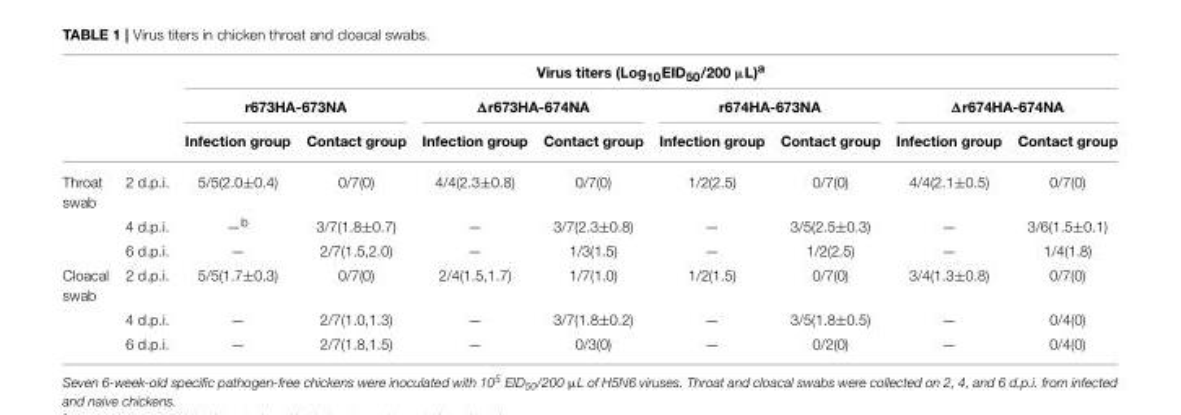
<table><thead><tr><td rowspan="3"></td><td rowspan="3"></td><td colspan="8">Virus titers (Log10EID50/200 µL)a</td></tr><tr><td colspan="2">r673HA-673NA</td><td colspan="2">Δr673HA-674NA</td><td colspan="2">r674HA-673NA</td><td colspan="2">Δr674HA-674NA</td></tr><tr><td>Infection group</td><td>Contact group</td><td>Infection group</td><td>Contact group</td><td>Infection group</td><td>Contact group</td><td>Infection group</td><td>Contact group</td></tr></thead><tbody><tr><td rowspan="3">Throat swab</td><td>2 d.p.i.</td><td>5/5(2.0±0.4)</td><td>0/7(0)</td><td>4/4(2.3±0.8)</td><td>0/7(0)</td><td>1/2(2.5)</td><td>0/7(0)</td><td>4/4(2.1±0.5)</td><td>0/7(0)</td></tr><tr><td>4 d.p.i.</td><td>—<sup>b</sup></td><td>3/7(1.8±0.7)</td><td>—</td><td>3/7(2.3±0.8)</td><td>—</td><td>3/5(2.5±0.3)</td><td>—</td><td>3/6(1.5±0.1)</td></tr><tr><td>6 d.p.i.</td><td>—</td><td>2/7(1.5,2.0)</td><td>—</td><td>1/3(1.5)</td><td>—</td><td>1/2(2.5)</td><td>—</td><td>1/4(1.8)</td></tr><tr><td rowspan="3">Cloacal swab</td><td>2 d.p.i.</td><td>5/5(1.7±0.3)</td><td>0/7(0)</td><td>2/4(1.5,1.7)</td><td>1/7(1.0)</td><td>1/2(1.5)</td><td>0/7(0)</td><td>3/4(1.3±0.8)</td><td>0/7(0)</td></tr><tr><td>4 d.p.i.</td><td>—</td><td>2/7(1.0,1.3)</td><td>—</td><td>3/7(1.8±0.2)</td><td>—</td><td>3/5(1.8±0.5)</td><td>—</td><td>0/4(0)</td></tr><tr><td>6 d.p.i.</td><td>—</td><td>2/7(1.8,1.5)</td><td>—</td><td>0/3(0)</td><td>—</td><td>0/2(0)</td><td>—</td><td>0/4(0)</td></tr></tbody></table>